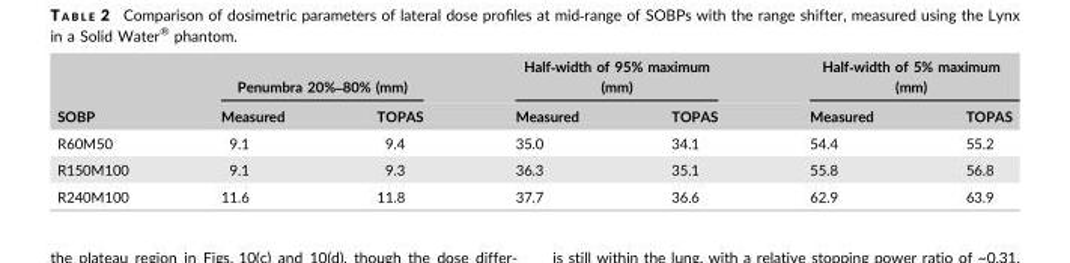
<table><thead><tr><td rowspan="2">SOBP</td><td colspan="2">Penumbra 20%–80% (mm)</td><td colspan="2">Half‐width of 95% maximum (mm)</td><td colspan="2">Half‐width of 5% maximum (mm)</td></tr><tr><td>Measured</td><td>TOPAS</td><td>Measured</td><td>TOPAS</td><td>Measured</td><td>TOPAS</td></tr></thead><tbody><tr><td>R60M50</td><td>9.1</td><td>9.4</td><td>35.0</td><td>34.1</td><td>54.4</td><td>55.2</td></tr><tr><td>R150M100</td><td>9.1</td><td>9.3</td><td>36.3</td><td>35.1</td><td>55.8</td><td>56.8</td></tr><tr><td>R240M100</td><td>11.6</td><td>11.8</td><td>37.7</td><td>36.6</td><td>62.9</td><td>63.9</td></tr></tbody></table>